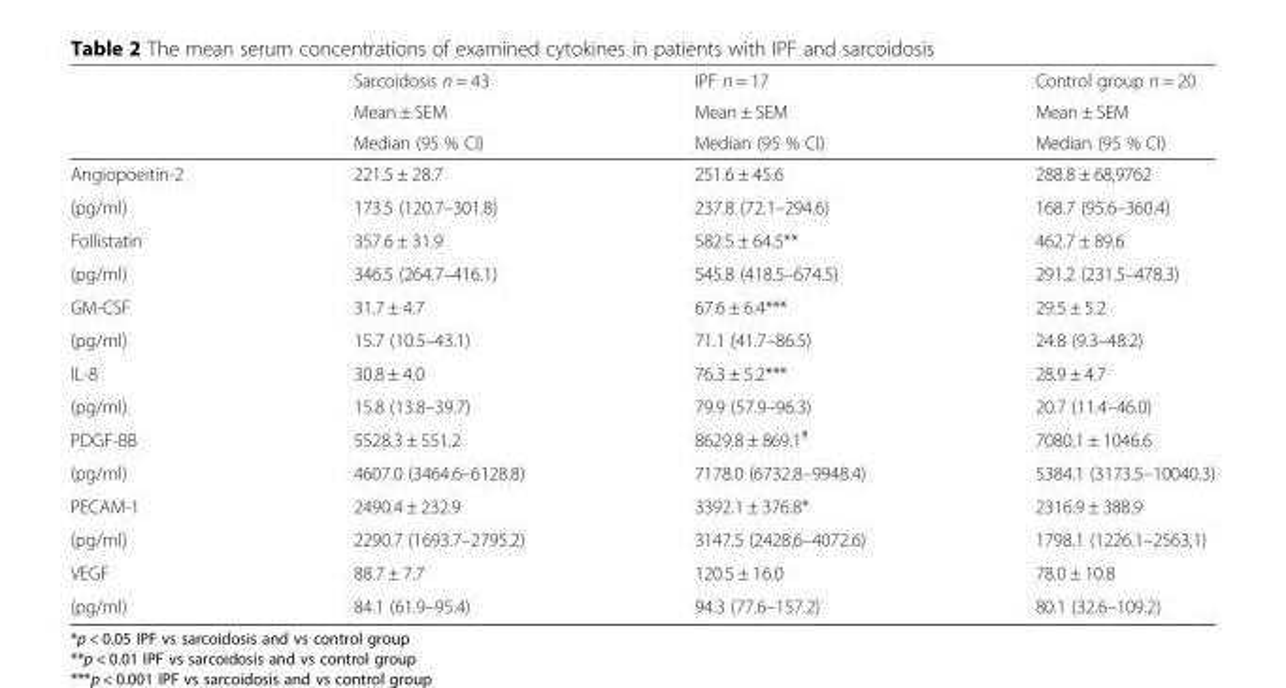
<table><thead><tr><td rowspan="3"></td><td rowspan="3">Sarcoidosis n = 43 Mean ± SEM Median (95 % CI)</td><td rowspan="3">IPF n = 17 Mean ± SEM Median (95 % CI)</td><td rowspan="3">Control group n = 20 Mean ± SEM Median (95 % CI)</td></tr><tr></tr><tr></tr></thead><tbody><tr><td>Angiopoeitin-2</td><td>221.5 ± 28.7</td><td>251.6 ± 45.6</td><td>288.8 ± 68,9762</td></tr><tr><td>(pg/ml)</td><td>173.5 (120.7–301.8)</td><td>237.8 (72.1–294.6)</td><td>168.7 (95.6–360.4)</td></tr><tr><td>Follistatin</td><td>357.6 ± 31.9</td><td>582.5 ± 64.5**</td><td>462.7 ± 89.6</td></tr><tr><td>(pg/ml)</td><td>346.5 (264.7–416.1)</td><td>545.8 (418.5–674.5)</td><td>291.2 (231.5–478.3)</td></tr><tr><td>GM-CSF</td><td>31.7 ± 4.7</td><td>67.6 ± 6.4***</td><td>29.5 ± 5.2</td></tr><tr><td>(pg/ml)</td><td>15.7 (10.5–43.1)</td><td>71.1 (41.7–86.5)</td><td>24.8 (9.3–48.2)</td></tr><tr><td>IL-8</td><td>30.8 ± 4.0</td><td>76.3 ± 5.2***</td><td>28.9 ± 4.7</td></tr><tr><td>(pg/ml)</td><td>15.8 (13.8–39.7)</td><td>79.9 (57.9–96.3)</td><td>20.7 (11.4–46.0)</td></tr><tr><td>PDGF-BB</td><td>5528.3 ± 551.2</td><td>8629.8 ± 869.1<sup>#</sup></td><td>7080.1 ± 1046.6</td></tr><tr><td>(pg/ml)</td><td>4607.0 (3464.6–6128.8)</td><td>7178.0 (6732.8–9948.4)</td><td>5384.1 (3173.5–10040.3)</td></tr><tr><td>PECAM-1</td><td>2490.4 ± 232.9</td><td>3392.1 ± 376.8*</td><td>2316.9 ± 388.9</td></tr><tr><td>(pg/ml)</td><td>2290.7 (1693.7–2795.2)</td><td>3147.5 (2428.6–4072.6)</td><td>1798.1 (1226.1–2563,1)</td></tr><tr><td>VEGF</td><td>88.7 ± 7.7</td><td>120.5 ± 16.0</td><td>78.0 ± 10.8</td></tr><tr><td>(pg/ml)</td><td>84.1 (61.9–95.4)</td><td>94.3 (77.6–157.2)</td><td>80.1 (32.6–109.2)</td></tr></tbody></table>